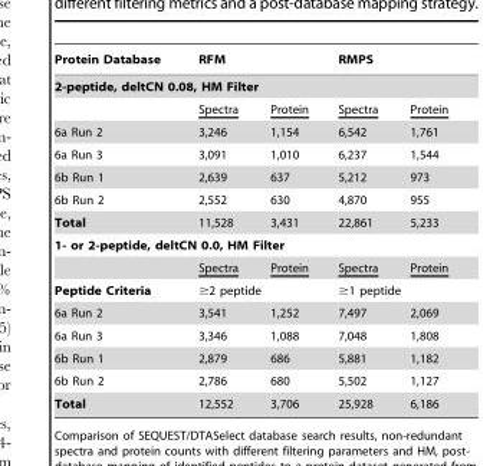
<table><thead><tr><td>Protein Database</td><td colspan="2">RFM</td><td colspan="2">RMPS</td></tr><tr><td colspan="5">2-peptide, deltCN 0.08, HM Filter</td></tr><tr><td></td><td>Spectra</td><td>Protein</td><td>Spectra</td><td>Protein</td></tr></thead><tbody><tr><td>6a Run 2</td><td>3,246</td><td>1,154</td><td>6,542</td><td>1,761</td></tr><tr><td>6a Run 3</td><td>3,091</td><td>1,010</td><td>6,237</td><td>1,544</td></tr><tr><td>6b Run 1</td><td>2,639</td><td>637</td><td>5,212</td><td>973</td></tr><tr><td>6b Run 2</td><td>2,552</td><td>630</td><td>4,870</td><td>955</td></tr><tr><td>Total</td><td>11,528</td><td>3,431</td><td>22,861</td><td>5,233</td></tr><tr><td colspan="5">1- or 2-peptide, deltCN 0.0, HM Filter</td></tr><tr><td></td><td>Spectra</td><td>Protein</td><td>Spectra</td><td>Protein</td></tr><tr><td>Peptide Criteria</td><td colspan="2">≥2 peptide</td><td colspan="2">≥1 peptide</td></tr><tr><td>6a Run 2</td><td>3,541</td><td>1,252</td><td>7,497</td><td>2,069</td></tr><tr><td>6a Run 3</td><td>3,346</td><td>1,088</td><td>7,048</td><td>1,808</td></tr><tr><td>6b Run 1</td><td>2,879</td><td>686</td><td>5,881</td><td>1,182</td></tr><tr><td>6b Run 2</td><td>2,786</td><td>680</td><td>5,502</td><td>1,127</td></tr><tr><td>Total</td><td>12,552</td><td>3,706</td><td>25,928</td><td>6,186</td></tr></tbody></table>